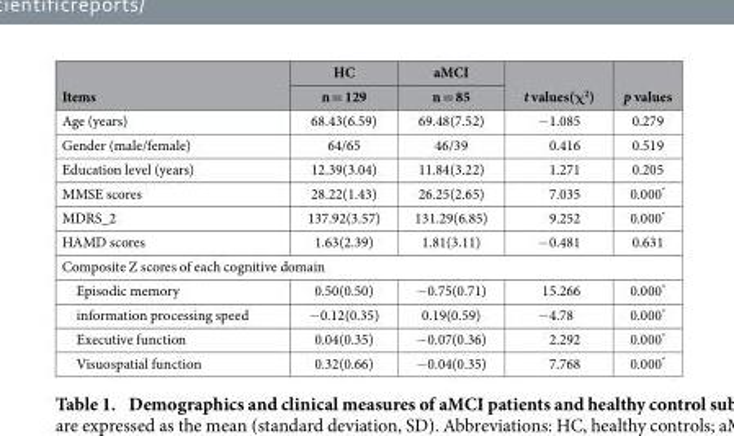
<table><thead><tr><td rowspan="2">Items</td><td rowspan="2">HC n = 129</td><td rowspan="2">aMCI n = 85</td><td rowspan="2">t values(χ<sup>2</sup>)</td><td rowspan="2">p values</td></tr><tr></tr></thead><tbody><tr><td>Age (years)</td><td>68.43(6.59)</td><td>69.48(7.52)</td><td>− 1.085</td><td>0.279</td></tr><tr><td>Gender (male/female)</td><td>64/65</td><td>46/39</td><td>0.416</td><td>0.519</td></tr><tr><td>Education level (years)</td><td>12.39(3.04)</td><td>11.84(3.22)</td><td>1.271</td><td>0.205</td></tr><tr><td>MMSE scores</td><td>28.22(1.43)</td><td>26.25(2.65)</td><td>7.035</td><td>0.000*</td></tr><tr><td>MDRS_2</td><td>137.92(3.57)</td><td>131.29(6.85)</td><td>9.252</td><td>0.000*</td></tr><tr><td>HAMD scores</td><td>1.63(2.39)</td><td>1.81(3.11)</td><td>− 0.481</td><td>0.631</td></tr><tr><td colspan="5">Composite Z scores of each cognitive domain</td></tr><tr><td>Episodic memory</td><td>0.50(0.50)</td><td>− 0.75(0.71)</td><td>15.266</td><td>0.000*</td></tr><tr><td>information processing speed</td><td>− 0.12(0.35)</td><td>0.19(0.59)</td><td>− 4.78</td><td>0.000*</td></tr><tr><td>Executive function</td><td>0.04(0.35)</td><td>− 0.07(0.36)</td><td>2.292</td><td>0.000*</td></tr><tr><td>Visuospatial function</td><td>0.32(0.66)</td><td>− 0.04(0.35)</td><td>7.768</td><td>0.000*</td></tr></tbody></table>